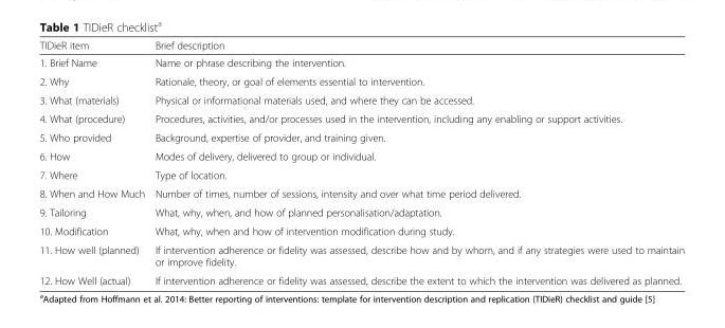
<table><thead><tr><td>TIDieR item</td><td>Brief description</td></tr></thead><tbody><tr><td>1. Brief Name</td><td>Name or phrase describing the intervention.</td></tr><tr><td>2. Why</td><td>Rationale, theory, or goal of elements essential to intervention.</td></tr><tr><td>3. What (materials)</td><td>Physical or informational materials used, and where they can be accessed.</td></tr><tr><td>4. What (procedure)</td><td>Procedures, activities, and/or processes used in the intervention, including any enabling or support activities.</td></tr><tr><td>5. Who provided</td><td>Background, expertise of provider, and training given.</td></tr><tr><td>6. How</td><td>Modes of delivery, delivered to group or individual.</td></tr><tr><td>7. Where</td><td>Type of location.</td></tr><tr><td>8. When and How Much</td><td>Number of times, number of sessions, intensity and over what time period delivered.</td></tr><tr><td>9. Tailoring</td><td>What, why, when, and how of planned personalisation/adaptation.</td></tr><tr><td>10. Modification</td><td>What, why, when and how of intervention modification during study.</td></tr><tr><td>11. How well (planned)</td><td>If intervention adherence or fidelity was assessed, describe how and by whom, and if any strategies were used to maintain or improve fidelity.</td></tr><tr><td>12. How Well (actual)</td><td>If intervention adherence or fidelity was assessed, describe the extent to which the intervention was delivered as planned.</td></tr></tbody></table>